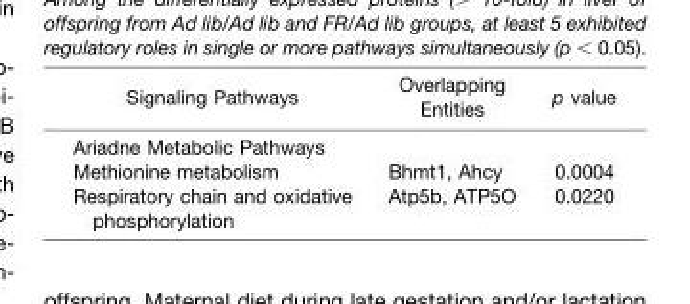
<table><thead><tr><td>Signaling Pathways</td><td>Overlapping Entities</td><td>p value</td></tr></thead><tbody><tr><td colspan="3">Ariadne Metabolic Pathways</td></tr><tr><td>Methionine metabolism</td><td>Bhmt1, Ahcy</td><td>0.0004</td></tr><tr><td>Respiratory chain and oxidative phosphorylation</td><td>Atp5b, ATP5O</td><td>0.0220</td></tr></tbody></table>